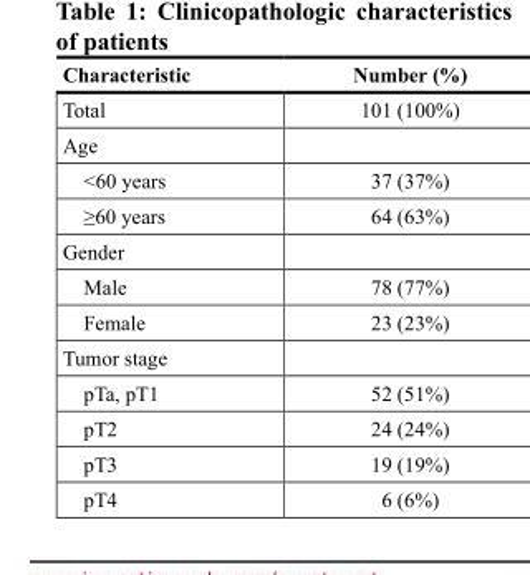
<table><thead><tr><td>Characteristic</td><td>Number (%)</td></tr></thead><tbody><tr><td>Total</td><td>101 (100%)</td></tr><tr><td colspan="2">Age</td></tr><tr><td>&lt;60 years</td><td>37 (37%)</td></tr><tr><td>≥60 years</td><td>64 (63%)</td></tr><tr><td colspan="2">Gender</td></tr><tr><td>Male</td><td>78 (77%)</td></tr><tr><td>Female</td><td>23 (23%)</td></tr><tr><td colspan="2">Tumor stage</td></tr><tr><td>pTa, pT1</td><td>52 (51%)</td></tr><tr><td>pT2</td><td>24 (24%)</td></tr><tr><td>pT3</td><td>19 (19%)</td></tr><tr><td>pT4</td><td>6 (6%)</td></tr></tbody></table>